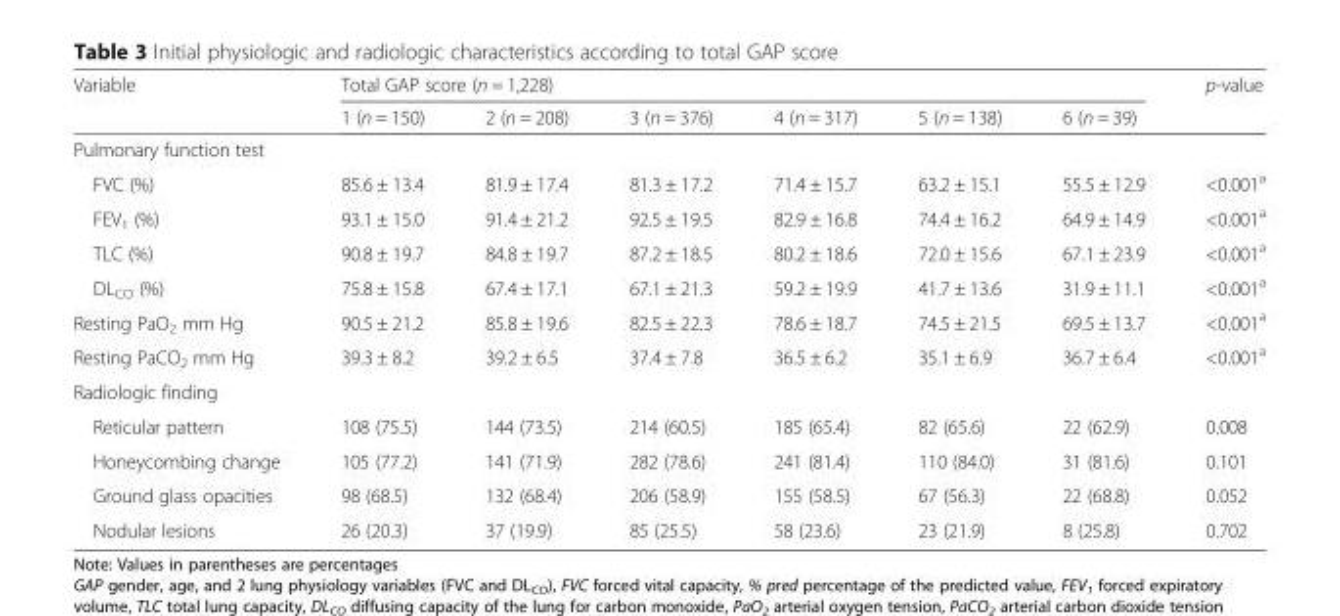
<table><thead><tr><td rowspan="2">Variable</td><td colspan="6">Total GAP score (n = 1,228)</td><td rowspan="2">p-value</td></tr><tr><td>1 (n = 150)</td><td>2 (n = 208)</td><td>3 (n = 376)</td><td>4 (n = 317)</td><td>5 (n = 138)</td><td>6 (n = 39)</td></tr></thead><tbody><tr><td colspan="8">Pulmonary function test</td></tr><tr><td>FVC (%)</td><td>85.6 ± 13.4</td><td>81.9 ± 17.4</td><td>81.3 ± 17.2</td><td>71.4 ± 15.7</td><td>63.2 ± 15.1</td><td>55.5 ± 12.9</td><td>&lt;0.001<sup>a</sup></td></tr><tr><td>FEV<sub>1</sub> (%)</td><td>93.1 ± 15.0</td><td>91.4 ± 21.2</td><td>92.5 ± 19.5</td><td>82.9 ± 16.8</td><td>74.4 ± 16.2</td><td>64.9 ± 14.9</td><td>&lt;0.001<sup>a</sup></td></tr><tr><td>TLC (%)</td><td>90.8 ± 19.7</td><td>84.8 ± 19.7</td><td>87.2 ± 18.5</td><td>80.2 ± 18.6</td><td>72.0 ± 15.6</td><td>67.1 ± 23.9</td><td>&lt;0.001<sup>a</sup></td></tr><tr><td>DL<sub>CO</sub> (%)</td><td>75.8 ± 15.8</td><td>67.4 ± 17.1</td><td>67.1 ± 21.3</td><td>59.2 ± 19.9</td><td>41.7 ± 13.6</td><td>31.9 ± 11.1</td><td>&lt;0.001<sup>a</sup></td></tr><tr><td>Resting PaO<sub>2</sub> mm Hg</td><td>90.5 ± 21.2</td><td>85.8 ± 19.6</td><td>82.5 ± 22.3</td><td>78.6 ± 18.7</td><td>74.5 ± 21.5</td><td>69.5 ± 13.7</td><td>&lt;0.001<sup>a</sup></td></tr><tr><td>Resting PaCO<sub>2</sub> mm Hg</td><td>39.3 ± 8.2</td><td>39.2 ± 6.5</td><td>37.4 ± 7.8</td><td>36.5 ± 6.2</td><td>35.1 ± 6.9</td><td>36.7 ± 6.4</td><td>&lt;0.001<sup>a</sup></td></tr><tr><td colspan="8">Radiologic finding</td></tr><tr><td>Reticular pattern</td><td>108 (75.5)</td><td>144 (73.5)</td><td>214 (60.5)</td><td>185 (65.4)</td><td>82 (65.6)</td><td>22 (62.9)</td><td>0.008</td></tr><tr><td>Honeycombing change</td><td>105 (77.2)</td><td>141 (71.9)</td><td>282 (78.6)</td><td>241 (81.4)</td><td>110 (84.0)</td><td>31 (81.6)</td><td>0.101</td></tr><tr><td>Ground glass opacities</td><td>98 (68.5)</td><td>132 (68.4)</td><td>206 (58.9)</td><td>155 (58.5)</td><td>67 (56.3)</td><td>22 (68.8)</td><td>0.052</td></tr><tr><td>Nodular lesions</td><td>26 (20.3)</td><td>37 (19.9)</td><td>85 (25.5)</td><td>58 (23.6)</td><td>23 (21.9)</td><td>8 (25.8)</td><td>0.702</td></tr></tbody></table>